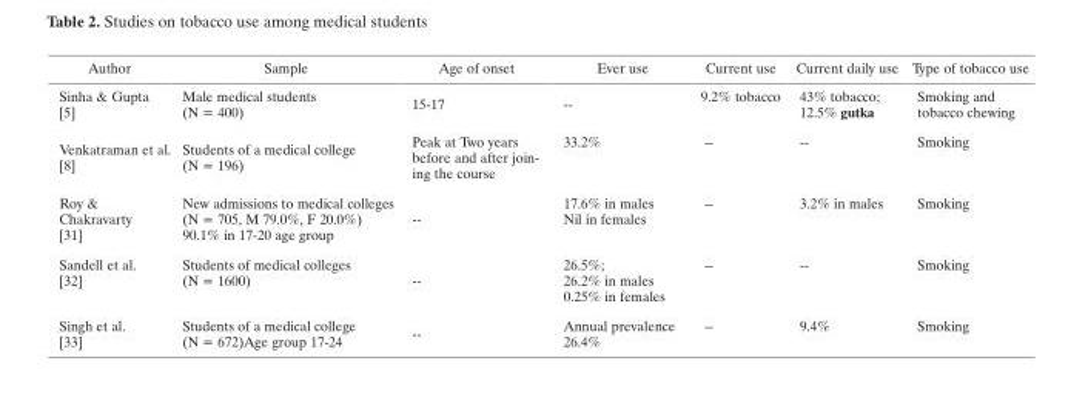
<table><thead><tr><td>Author</td><td>Sample</td><td>Age of onset</td><td>Ever use</td><td>Current use</td><td>Current daily use</td><td>Type of tobacco use</td></tr></thead><tbody><tr><td>Sinha &amp; Gupta [5]</td><td>Male medical students (N = 400)</td><td>15-17</td><td>--</td><td>9.2% tobacco</td><td>43% tobacco; 12.5% gutka</td><td>Smoking and tobacco chewing</td></tr><tr><td>Venkatraman et al. [8]</td><td>Students of a medical college (N = 196)</td><td>Peak at Two years before and after join- ing the course</td><td>33.2%</td><td>--</td><td>--</td><td>Smoking</td></tr><tr><td>Roy &amp; Chakravarty [31]</td><td>New admissions to medical colleges (N = 705, M 79.0%, F 20.0%) 90.1% in 17-20 age group</td><td>--</td><td>17.6% in males Nil in females</td><td>--</td><td>3.2% in males</td><td>Smoking</td></tr><tr><td>Sandell et al. [32]</td><td>Students of medical colleges (N = 1600)</td><td>--</td><td>26.5%; 26.2% in males 0.25% in females</td><td>--</td><td>--</td><td>Smoking</td></tr><tr><td>Singh et al. [33]</td><td>Students of a medical college (N = 672)Age group 17-24</td><td>--</td><td>Annual prevalence 26.4%</td><td>--</td><td>9.4%</td><td>Smoking</td></tr></tbody></table>